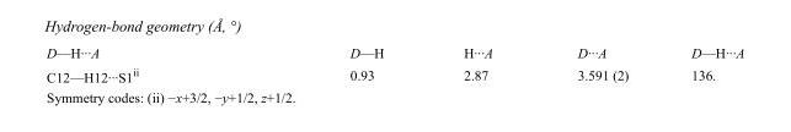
<table><tbody><tr><td>D—H···A</td><td>D—H</td><td>H···A</td><td>D···A</td><td>D—H···A</td></tr><tr><td>C12—H12···S1<sup>ii</sup></td><td>0.93</td><td>2.87</td><td>3.591 (2)</td><td>136.</td></tr></tbody></table>